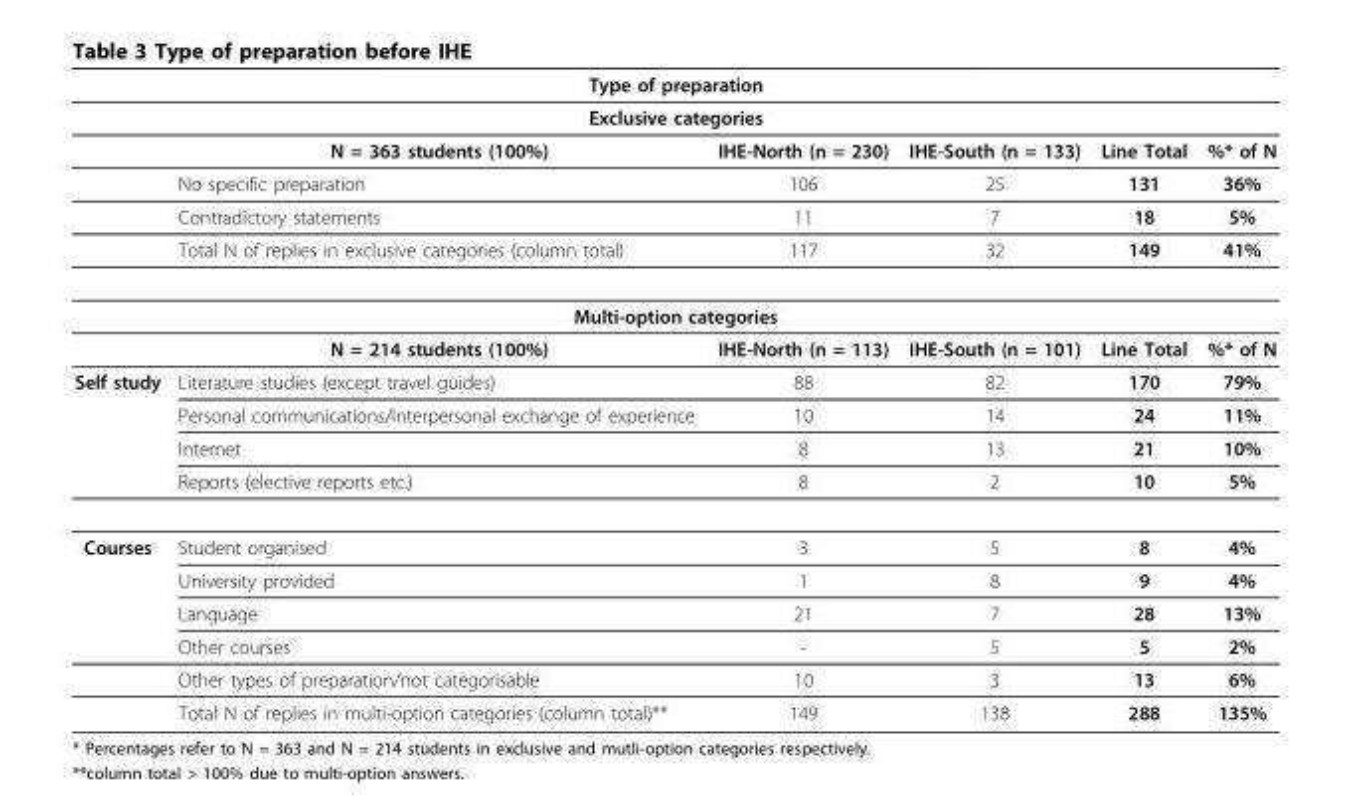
<table><thead><tr><td rowspan="2" colspan="6">Type of preparation Exclusive categories</td></tr><tr></tr><tr><td></td><td>N = 363 students (100%)</td><td>IHE-North (n = 230)</td><td>IHE-South (n = 133)</td><td>Line Total</td><td>%* of N</td></tr></thead><tbody><tr><td></td><td>No specific preparation</td><td>106</td><td>25</td><td>131</td><td>36%</td></tr><tr><td></td><td>Contradictory statements</td><td>11</td><td>7</td><td>18</td><td>5%</td></tr><tr><td></td><td>Total N of replies in exclusive categories (column total)</td><td>117</td><td>32</td><td>149</td><td>41%</td></tr><tr><td colspan="6">Multi-option categories</td></tr><tr><td></td><td>N = 214 students (100%)</td><td>IHE-North (n = 113)</td><td>IHE-South (n = 101)</td><td>Line Total</td><td>%* of N</td></tr><tr><td rowspan="4">Self study</td><td>Literature studies (except travel guides)</td><td>88</td><td>82</td><td>170</td><td>79%</td></tr><tr><td>Personal communications/Interpersonal exchange of experience</td><td>10</td><td>14</td><td>24</td><td>11%</td></tr><tr><td>Internet</td><td>8</td><td>13</td><td>21</td><td>10%</td></tr><tr><td>Reports (elective reports etc.)</td><td>8</td><td>2</td><td>10</td><td>5%</td></tr><tr><td rowspan="6">Courses</td><td>Student organised</td><td>3</td><td>5</td><td>8</td><td>4%</td></tr><tr><td>University provided</td><td>1</td><td>8</td><td>9</td><td>4%</td></tr><tr><td>Language</td><td>21</td><td>7</td><td>28</td><td>13%</td></tr><tr><td>Other courses</td><td>-</td><td>5</td><td>5</td><td>2%</td></tr><tr><td>Other types of preparation/not categorisable</td><td>10</td><td>3</td><td>13</td><td>6%</td></tr><tr><td>Total N of replies in multi-option categories (column total)**</td><td>149</td><td>138</td><td>288</td><td>135%</td></tr></tbody></table>